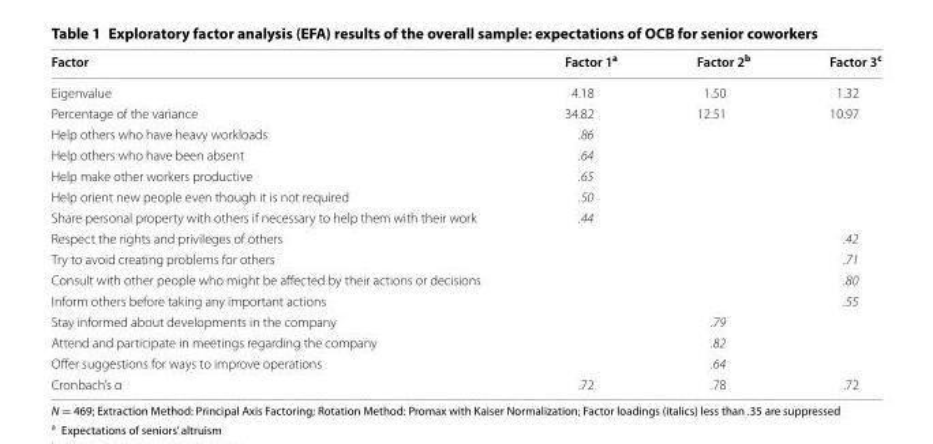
<table><thead><tr><td>Factor</td><td>Factor 1<sup>a</sup></td><td>Factor 2<sup>b</sup></td><td>Factor 3<sup>c</sup></td></tr></thead><tbody><tr><td>Eigenvalue</td><td>4.18</td><td>1.50</td><td>1.32</td></tr><tr><td>Percentage of the variance</td><td>34.82</td><td>12.51</td><td>10.97</td></tr><tr><td>Help others who have heavy workloads</td><td>.86</td><td></td><td></td></tr><tr><td>Help others who have been absent</td><td>.64</td><td></td><td></td></tr><tr><td>Help make other workers productive</td><td>.65</td><td></td><td></td></tr><tr><td>Help orient new people even though it is not required</td><td>.50</td><td></td><td></td></tr><tr><td>Share personal property with others if necessary to help them with their work</td><td>.44</td><td></td><td></td></tr><tr><td>Respect the rights and privileges of others</td><td></td><td></td><td>.42</td></tr><tr><td>Try to avoid creating problems for others</td><td></td><td></td><td>.71</td></tr><tr><td>Consult with other people who might be affected by their actions or decisions</td><td></td><td></td><td>.80</td></tr><tr><td>Inform others before taking any important actions</td><td></td><td></td><td>.55</td></tr><tr><td>Stay informed about developments in the company</td><td></td><td>.79</td><td></td></tr><tr><td>Attend and participate in meetings regarding the company</td><td></td><td>.82</td><td></td></tr><tr><td>Offer suggestions for ways to improve operations</td><td></td><td>.64</td><td></td></tr><tr><td>Cronbach’s α</td><td>.72</td><td>.78</td><td>.72</td></tr></tbody></table>